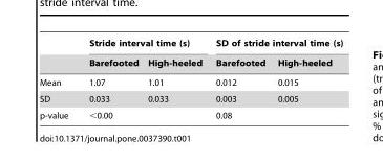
<table><thead><tr><td rowspan="2"></td><td colspan="2">Stride interval time (s)</td><td colspan="2">SD of stride interval time (s)</td></tr><tr><td>Barefooted</td><td>High-heeled</td><td>Barefooted</td><td>High-heeled</td></tr></thead><tbody><tr><td>Mean</td><td>1.07</td><td>1.01</td><td>0.012</td><td>0.015</td></tr><tr><td>SD</td><td>0.033</td><td>0.033</td><td>0.003</td><td>0.005</td></tr><tr><td>p-value</td><td colspan="2">&lt;0.00</td><td colspan="2">0.08</td></tr></tbody></table>